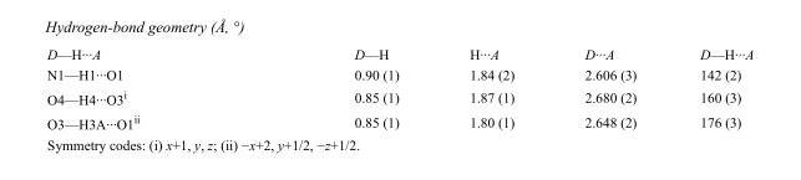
<table><tbody><tr><td>D—H···A</td><td>D—H</td><td>H···A</td><td>D···A</td><td>D—H···A</td></tr><tr><td>N1—H1···O1</td><td>0.90 (1)</td><td>1.84 (2)</td><td>2.606 (3)</td><td>142 (2)</td></tr><tr><td>O4—H4···O3<sup>i</sup></td><td>0.85 (1)</td><td>1.87 (1)</td><td>2.680 (2)</td><td>160 (3)</td></tr><tr><td>O3—H3A···O1<sup>ii</sup></td><td>0.85 (1)</td><td>1.80 (1)</td><td>2.648 (2)</td><td>176 (3)</td></tr></tbody></table>